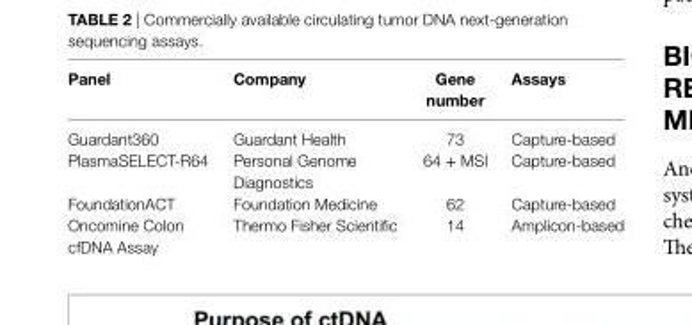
<table><thead><tr><td>Panel</td><td>Company</td><td>Gene number</td><td>Assays</td></tr></thead><tbody><tr><td>Guardant360</td><td>Guardant Health</td><td>73</td><td>Capture-based</td></tr><tr><td>PlasmaSELECT-R64</td><td>Personal Genome Diagnostics</td><td>64 + MSI</td><td>Capture-based</td></tr><tr><td>FoundationACT</td><td>Foundation Medicine</td><td>62</td><td>Capture-based</td></tr><tr><td>Oncomine Colon cfDNA Assay</td><td>Thermo Fisher Scientific</td><td>14</td><td>Amplicon-based</td></tr></tbody></table>